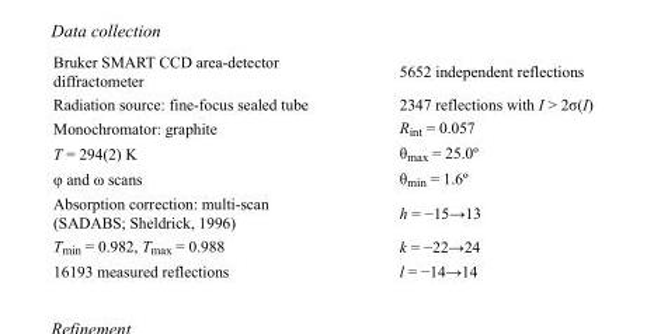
<table><tbody><tr><td>Bruker SMART CCD area-detector diffractometer</td><td>5652 independent reflections</td></tr><tr><td>Radiation source: fine-focus sealed tube</td><td>2347 reflections with I &gt; 2σ(I)</td></tr><tr><td>Monochromator: graphite</td><td>R<sub>int</sub> = 0.057</td></tr><tr><td>T = 294(2) K</td><td>θ<sub>max</sub> = 25.0º</td></tr><tr><td>φ and ω scans</td><td>θ<sub>min</sub> = 1.6º</td></tr><tr><td>Absorption correction: multi-scan (SADABS; Sheldrick, 1996)</td><td>h = −15→13</td></tr><tr><td>T<sub>min</sub> = 0.982, T<sub>max</sub> = 0.988</td><td>k = −22→24</td></tr><tr><td>16193 measured reflections</td><td>l = −14→14</td></tr></tbody></table>